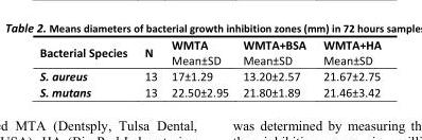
<table><thead><tr><td rowspan="2">Bacterial Species</td><td rowspan="2">N</td><td rowspan="2">WMTA Mean±SD</td><td rowspan="2">WMTA+BSA Mean±SD</td><td rowspan="2">WMTA+HA Mean±SD</td></tr><tr></tr></thead><tbody><tr><td>S. aureus</td><td>13</td><td>17±1.29</td><td>13.20±2.57</td><td>21.67±2.75</td></tr><tr><td>S. mutans</td><td>13</td><td>22.50±2.95</td><td>21.80±1.89</td><td>21.46±3.42</td></tr></tbody></table>